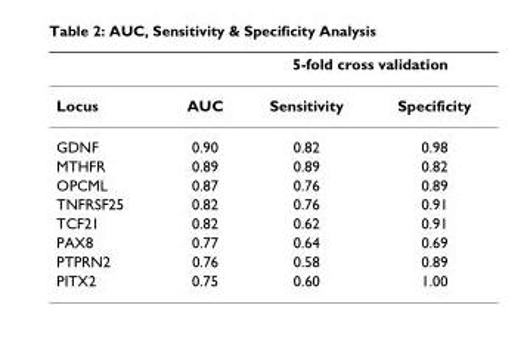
<table><thead><tr><td rowspan="2">Locus</td><td rowspan="2">AUC</td><td colspan="2">5-fold cross validation</td></tr><tr><td>Sensitivity</td><td>Specificity</td></tr></thead><tbody><tr><td>GDNF</td><td>0.90</td><td>0.82</td><td>0.98</td></tr><tr><td>MTHFR</td><td>0.89</td><td>0.89</td><td>0.82</td></tr><tr><td>OPCML</td><td>0.87</td><td>0.76</td><td>0.89</td></tr><tr><td>TNFRSF25</td><td>0.82</td><td>0.76</td><td>0.91</td></tr><tr><td>TCF21</td><td>0.82</td><td>0.62</td><td>0.91</td></tr><tr><td>PAX8</td><td>0.77</td><td>0.64</td><td>0.69</td></tr><tr><td>PTPRN2</td><td>0.76</td><td>0.58</td><td>0.89</td></tr><tr><td>PITX2</td><td>0.75</td><td>0.60</td><td>1.00</td></tr></tbody></table>